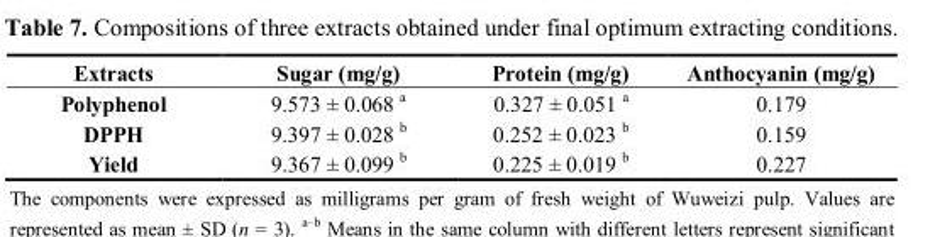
<table><thead><tr><td>Extracts</td><td>Sugar (mg/g)</td><td>Protein (mg/g)</td><td>Anthocyanin (mg/g)</td></tr></thead><tbody><tr><td>Polyphenol</td><td>9.573 ± 0.068 a</td><td>0.327 ± 0.051 a</td><td>0.179</td></tr><tr><td>DPPH</td><td>9.397 ± 0.028 b</td><td>0.252 ± 0.023 b</td><td>0.159</td></tr><tr><td>Yield</td><td>9.367 ± 0.099 b</td><td>0.225 ± 0.019 b</td><td>0.227</td></tr></tbody></table>